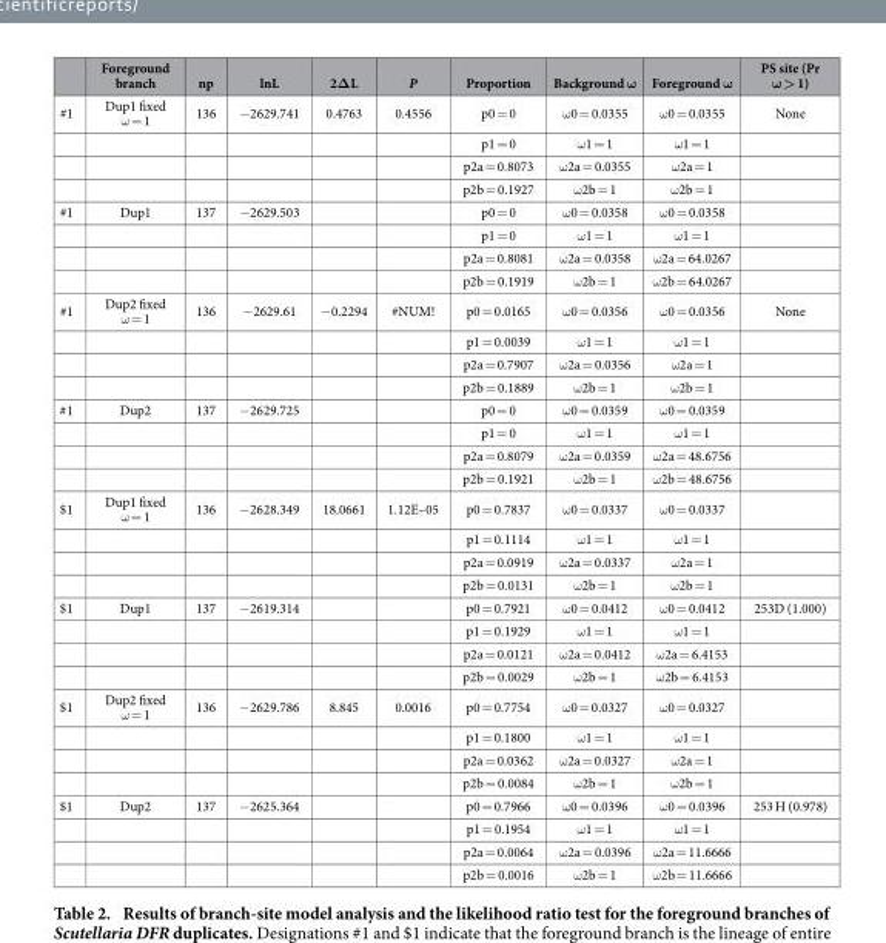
<table><thead><tr><td></td><td>Foreground branch</td><td>np</td><td>lnL</td><td>2ΔL</td><td>P</td><td>Proportion</td><td>Background ω</td><td>Foreground ω</td><td>PS site (Pr ω &gt; 1)</td></tr></thead><tbody><tr><td rowspan="4">#1</td><td>Dup1 fixed ω = 1</td><td>136</td><td>− 2629.741</td><td>0.4763</td><td>0.4556</td><td>p0 = 0</td><td>ω 0 = 0.0355</td><td>ω 0 = 0.0355</td><td>None</td></tr><tr><td></td><td></td><td></td><td></td><td></td><td>p1 = 0</td><td>ω 1 = 1</td><td>ω 1 = 1</td><td></td></tr><tr><td></td><td></td><td></td><td></td><td></td><td>p2a = 0.8073</td><td>ω 2a = 0.0355</td><td>ω 2a = 1</td><td></td></tr><tr><td></td><td></td><td></td><td></td><td></td><td>p2b = 0.1927</td><td>ω 2b = 1</td><td>ω 2b = 1</td><td></td></tr><tr><td rowspan="4">#1</td><td>Dup1</td><td>137</td><td>− 2629.503</td><td></td><td></td><td>p0 = 0</td><td>ω 0 = 0.0358</td><td>ω 0 = 0.0358</td><td></td></tr><tr><td></td><td></td><td></td><td></td><td></td><td>p1 = 0</td><td>ω 1 = 1</td><td>ω 1 = 1</td><td></td></tr><tr><td></td><td></td><td></td><td></td><td></td><td>p2a = 0.8081</td><td>ω 2a = 0.0358</td><td>ω 2a = 64.0267</td><td></td></tr><tr><td></td><td></td><td></td><td></td><td></td><td>p2b = 0.1919</td><td>ω 2b = 1</td><td>ω 2b = 64.0267</td><td></td></tr><tr><td rowspan="4">#1</td><td>Dup2 fixed ω = 1</td><td>136</td><td>− 2629.61</td><td>− 0.2294</td><td>#NUM!</td><td>p0 = 0.0165</td><td>ω 0 = 0.0356</td><td>ω 0 = 0.0356</td><td>None</td></tr><tr><td></td><td></td><td></td><td></td><td></td><td>p1 = 0.0039</td><td>ω 1 = 1</td><td>ω 1 = 1</td><td></td></tr><tr><td></td><td></td><td></td><td></td><td></td><td>p2a = 0.7907</td><td>ω 2a = 0.0356</td><td>ω 2a = 1</td><td></td></tr><tr><td></td><td></td><td></td><td></td><td></td><td>p2b = 0.1889</td><td>ω 2b = 1</td><td>ω 2b = 1</td><td></td></tr><tr><td rowspan="4">#1</td><td>Dup2</td><td>137</td><td>− 2629.725</td><td></td><td></td><td>p0 = 0</td><td>ω 0 = 0.0359</td><td>ω 0 = 0.0359</td><td></td></tr><tr><td></td><td></td><td></td><td></td><td></td><td>p1 = 0</td><td>ω 1 = 1</td><td>ω 1 = 1</td><td></td></tr><tr><td></td><td></td><td></td><td></td><td></td><td>p2a = 0.8079</td><td>ω 2a = 0.0359</td><td>ω 2a = 48.6756</td><td></td></tr><tr><td></td><td></td><td></td><td></td><td></td><td>p2b = 0.1921</td><td>ω 2b = 1</td><td>ω 2b = 48.6756</td><td></td></tr><tr><td rowspan="4">$1</td><td>Dup1 fixed ω = 1</td><td>136</td><td>− 2628.349</td><td>18.0661</td><td>1.12E–05</td><td>p0 = 0.7837</td><td>ω 0 = 0.0337</td><td>ω 0 = 0.0337</td><td></td></tr><tr><td></td><td></td><td></td><td></td><td></td><td>p1 = 0.1114</td><td>ω 1 = 1</td><td>ω 1 = 1</td><td></td></tr><tr><td></td><td></td><td></td><td></td><td></td><td>p2a = 0.0919</td><td>ω 2a = 0.0337</td><td>ω 2a = 1</td><td></td></tr><tr><td></td><td></td><td></td><td></td><td></td><td>p2b = 0.0131</td><td>ω 2b = 1</td><td>ω 2b = 1</td><td></td></tr><tr><td rowspan="4">$1</td><td>Dup1</td><td>137</td><td>− 2619.314</td><td></td><td></td><td>p0 = 0.7921</td><td>ω 0 = 0.0412</td><td>ω 0 = 0.0412</td><td>253D (1.000)</td></tr><tr><td></td><td></td><td></td><td></td><td></td><td>p1 = 0.1929</td><td>ω 1 = 1</td><td>ω 1 = 1</td><td></td></tr><tr><td></td><td></td><td></td><td></td><td></td><td>p2a = 0.0121</td><td>ω 2a = 0.0412</td><td>ω 2a = 6.4153</td><td></td></tr><tr><td></td><td></td><td></td><td></td><td></td><td>p2b = 0.0029</td><td>ω 2b = 1</td><td>ω 2b = 6.4153</td><td></td></tr><tr><td rowspan="4">$1</td><td>Dup2 fixed ω = 1</td><td>136</td><td>− 2629.786</td><td>8.845</td><td>0.0016</td><td>p0 = 0.7754</td><td>ω 0 = 0.0327</td><td>ω 0 = 0.0327</td><td></td></tr><tr><td></td><td></td><td></td><td></td><td></td><td>p1 = 0.1800</td><td>ω 1 = 1</td><td>ω 1 = 1</td><td></td></tr><tr><td></td><td></td><td></td><td></td><td></td><td>p2a = 0.0362</td><td>ω 2a = 0.0327</td><td>ω 2a = 1</td><td></td></tr><tr><td></td><td></td><td></td><td></td><td></td><td>p2b = 0.0084</td><td>ω 2b = 1</td><td>ω 2b = 1</td><td></td></tr><tr><td rowspan="4">$1</td><td>Dup2</td><td>137</td><td>− 2625.364</td><td></td><td></td><td>p0 = 0.7966</td><td>ω 0 = 0.0396</td><td>ω 0 = 0.0396</td><td>253 H (0.978)</td></tr><tr><td></td><td></td><td></td><td></td><td></td><td>p1 = 0.1954</td><td>ω 1 = 1</td><td>ω 1 = 1</td><td></td></tr><tr><td></td><td></td><td></td><td></td><td></td><td>p2a = 0.0064</td><td>ω 2a = 0.0396</td><td>ω 2a = 11.6666</td><td></td></tr><tr><td></td><td></td><td></td><td></td><td></td><td>p2b = 0.0016</td><td>ω 2b = 1</td><td>ω 2b = 11.6666</td><td></td></tr></tbody></table>